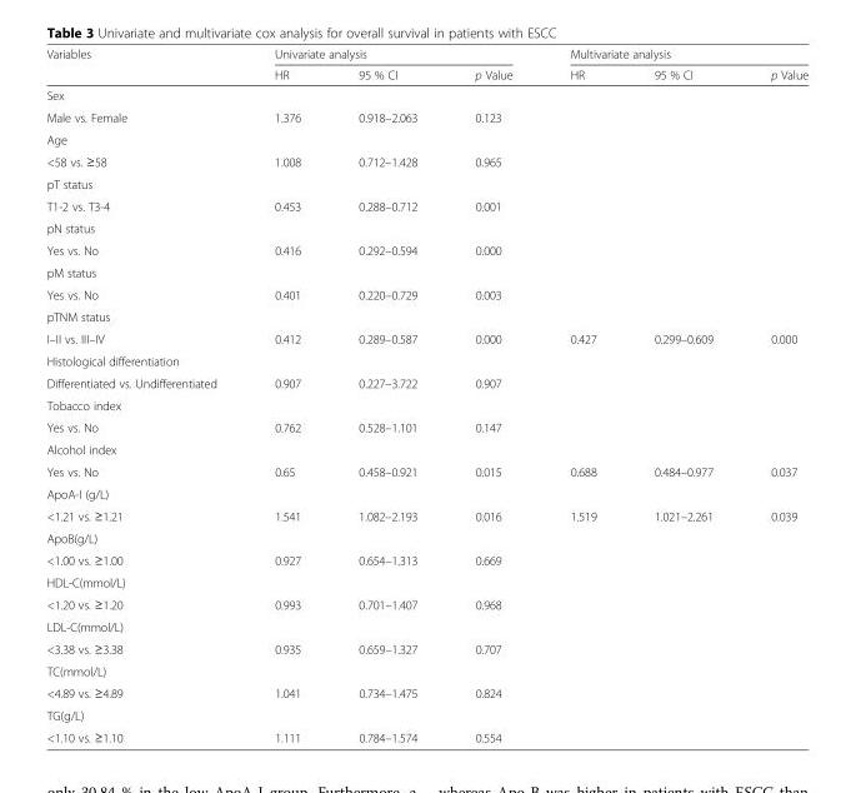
<table><thead><tr><td rowspan="2">Variables</td><td colspan="3">Univariate analysis</td><td colspan="3">Multivariate analysis</td></tr><tr><td>HR</td><td>95 % CI</td><td>p Value</td><td>HR</td><td>95 % CI</td><td>p Value</td></tr></thead><tbody><tr><td colspan="7">Sex</td></tr><tr><td>Male vs. Female</td><td>1.376</td><td>0.918–2.063</td><td>0.123</td><td></td><td></td><td></td></tr><tr><td colspan="7">Age</td></tr><tr><td>&lt;58 vs. ≥58</td><td>1.008</td><td>0.712–1.428</td><td>0.965</td><td></td><td></td><td></td></tr><tr><td colspan="7">pT status</td></tr><tr><td>T1-2 vs. T3-4</td><td>0.453</td><td>0.288–0.712</td><td>0.001</td><td></td><td></td><td></td></tr><tr><td colspan="7">pN status</td></tr><tr><td>Yes vs. No</td><td>0.416</td><td>0.292–0.594</td><td>0.000</td><td></td><td></td><td></td></tr><tr><td colspan="7">pM status</td></tr><tr><td>Yes vs. No</td><td>0.401</td><td>0.220–0.729</td><td>0.003</td><td></td><td></td><td></td></tr><tr><td colspan="7">pTNM status</td></tr><tr><td>I–II vs. III–IV</td><td>0.412</td><td>0.289–0.587</td><td>0.000</td><td>0.427</td><td>0.299–0.609</td><td>0.000</td></tr><tr><td colspan="7">Histological differentiation</td></tr><tr><td>Differentiated vs. Undifferentiated</td><td>0.907</td><td>0.227–3.722</td><td>0.907</td><td></td><td></td><td></td></tr><tr><td colspan="7">Tobacco index</td></tr><tr><td>Yes vs. No</td><td>0.762</td><td>0.528–1.101</td><td>0.147</td><td></td><td></td><td></td></tr><tr><td colspan="7">Alcohol index</td></tr><tr><td>Yes vs. No</td><td>0.65</td><td>0.458–0.921</td><td>0.015</td><td>0.688</td><td>0.484–0.977</td><td>0.037</td></tr><tr><td colspan="7">ApoA-I (g/L)</td></tr><tr><td>&lt;1.21 vs. ≥1.21</td><td>1.541</td><td>1.082–2.193</td><td>0.016</td><td>1.519</td><td>1.021–2.261</td><td>0.039</td></tr><tr><td colspan="7">ApoB(g/L)</td></tr><tr><td>&lt;1.00 vs. ≥1.00</td><td>0.927</td><td>0.654–1.313</td><td>0.669</td><td></td><td></td><td></td></tr><tr><td colspan="7">HDL-C(mmol/L)</td></tr><tr><td>&lt;1.20 vs. ≥1.20</td><td>0.993</td><td>0.701–1.407</td><td>0.968</td><td></td><td></td><td></td></tr><tr><td colspan="7">LDL-C(mmol/L)</td></tr><tr><td>&lt;3.38 vs. ≥3.38</td><td>0.935</td><td>0.659–1.327</td><td>0.707</td><td></td><td></td><td></td></tr><tr><td colspan="7">TC(mmol/L)</td></tr><tr><td>&lt;4.89 vs. ≥4.89</td><td>1.041</td><td>0.734–1.475</td><td>0.824</td><td></td><td></td><td></td></tr><tr><td colspan="7">TG(g/L)</td></tr><tr><td>&lt;1.10 vs. ≥1.10</td><td>1.111</td><td>0.784–1.574</td><td>0.554</td><td></td><td></td><td></td></tr></tbody></table>